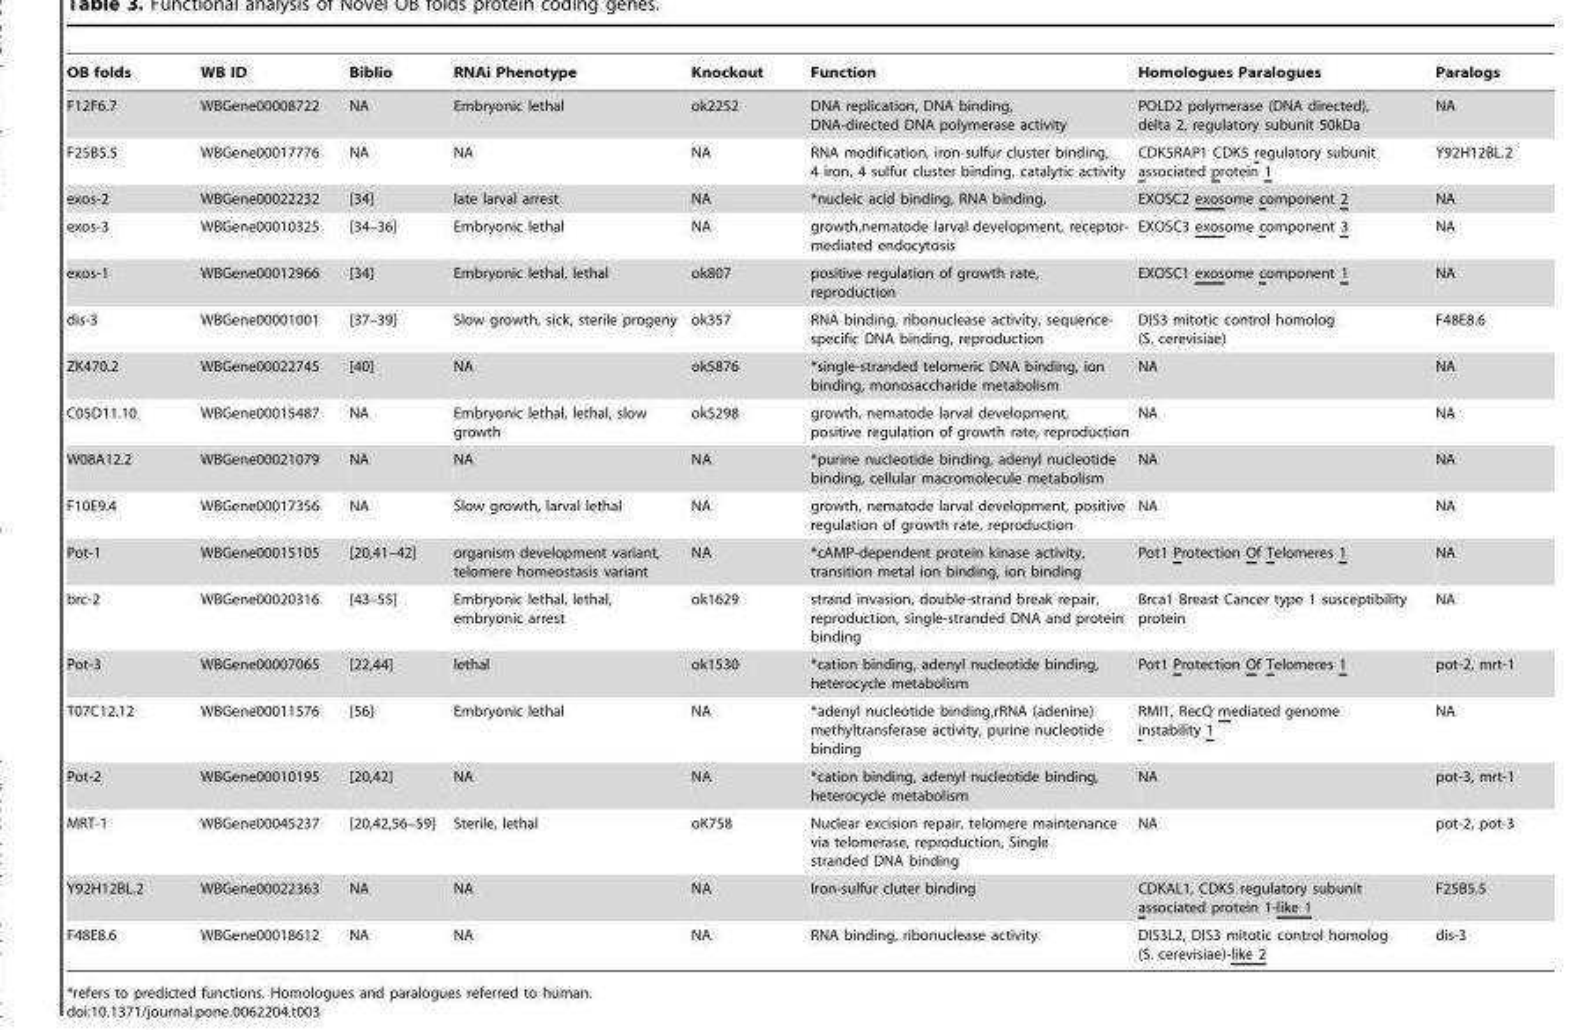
<table><thead><tr><td>OB folds</td><td>WB ID</td><td>Biblio</td><td>RNAi Phenotype</td><td>Knockout</td><td>Function</td><td>Homologues Paralogues</td><td>Paralogs</td></tr></thead><tbody><tr><td>F12F6.7</td><td>WBGene00008722</td><td>NA</td><td>Embryonic lethal</td><td>ok2252</td><td>DNA replication, DNA binding, DNA-directed DNA polymerase activity</td><td>POLD2 polymerase (DNA directed), delta 2, regulatory subunit 50kDa</td><td>NA</td></tr><tr><td>F25B5.5</td><td>WBGene00017776</td><td>NA</td><td>NA</td><td>NA</td><td>RNA modification, iron-sulfur cluster binding, 4 iron, 4 sulfur cluster binding, catalytic activity</td><td>CDK5RAP1 CDK5 regulatory subunit associated protein 1</td><td>Y92H12BL.2</td></tr><tr><td>exos-2</td><td>WBGene00022232</td><td>[34]</td><td>late larval arrest</td><td>NA</td><td>*nucleic acid binding, RNA binding,</td><td>EXOSC2 exosome component 2</td><td>NA</td></tr><tr><td>exos-3</td><td>WBGene00010325</td><td>[34–36]</td><td>Embryonic lethal</td><td>NA</td><td>growth,nematode larval development, receptor- mediated endocytosis</td><td>EXOSC3 exosome component 3</td><td>NA</td></tr><tr><td>exos-1</td><td>WBGene00012966</td><td>[34]</td><td>Embryonic lethal, lethal</td><td>ok807</td><td>positive regulation of growth rate, reproduction</td><td>EXOSC1 exosome component 1</td><td>NA</td></tr><tr><td>dis-3</td><td>WBGene00001001</td><td>[37–39]</td><td>Slow growth, sick, sterile progeny</td><td>ok357</td><td>RNA binding, ribonuclease activity, sequence- specific DNA binding, reproduction</td><td>DIS3 mitotic control homolog (S. cerevisiae)</td><td>F48E8.6</td></tr><tr><td>ZK470.2</td><td>WBGene00022745</td><td>[40]</td><td>NA</td><td>ok5876</td><td>*single-stranded telomeric DNA binding, ion binding, monosaccharide metabolism</td><td>NA</td><td>NA</td></tr><tr><td>C05D11.10</td><td>WBGene00015487</td><td>NA</td><td>Embryonic lethal, lethal, slow growth</td><td>ok5298</td><td>growth, nematode larval development, positive regulation of growth rate, reproduction</td><td>NA</td><td>NA</td></tr><tr><td>W08A12.2</td><td>WBGene00021079</td><td>NA</td><td>NA</td><td>NA</td><td>*purine nucleotide binding, adenyl nucleotide binding, cellular macromolecule metabolism</td><td>NA</td><td>NA</td></tr><tr><td>F10E9.4</td><td>WBGene00017356</td><td>NA</td><td>Slow growth, larval lethal</td><td>NA</td><td>growth, nematode larval development, positive regulation of growth rate, reproduction</td><td>NA</td><td>NA</td></tr><tr><td>Pot-1</td><td>WBGene00015105</td><td>[20,41–42]</td><td>organism development variant, telomere homeostasis variant</td><td>NA</td><td>*cAMP-dependent protein kinase activity, transition metal ion binding, ion binding</td><td>Pot1 Protection Of Telomeres 1</td><td>NA</td></tr><tr><td>brc-2</td><td>WBGene00020316</td><td>[43–55]</td><td>Embryonic lethal, lethal, embryonic arrest</td><td>ok1629</td><td>strand invasion, double-strand break repair, reproduction, single-stranded DNA and protein binding</td><td>Brca1 Breast Cancer type 1 susceptibility protein</td><td>NA</td></tr><tr><td>Pot-3</td><td>WBGene00007065</td><td>[22,44]</td><td>lethal</td><td>ok1530</td><td>*cation binding, adenyl nucleotide binding, heterocycle metabolism</td><td>Pot1 Protection Of Telomeres 1</td><td>pot-2, mrt-1</td></tr><tr><td>T07C12.12</td><td>WBGene00011576</td><td>[56]</td><td>Embryonic lethal</td><td>NA</td><td>*adenyl nucleotide binding,rRNA (adenine) methyltransferase activity, purine nucleotide binding</td><td>RMI1, RecQ mediated genome instability 1</td><td>NA</td></tr><tr><td>Pot-2</td><td>WBGene00010195</td><td>[20,42]</td><td>NA</td><td>NA</td><td>*cation binding, adenyl nucleotide binding, heterocycle metabolism</td><td>NA</td><td>pot-3, mrt-1</td></tr><tr><td>MRT-1</td><td>WBGene00045237</td><td>[20,42,56–59]</td><td>Sterile, lethal</td><td>oK758</td><td>Nuclear excision repair, telomere maintenance via telomerase, reproduction, Single stranded DNA binding</td><td>NA</td><td>pot-2, pot-3</td></tr><tr><td>Y92H12BL.2</td><td>WBGene00022363</td><td>NA</td><td>NA</td><td>NA</td><td>Iron-sulfur cluter binding</td><td>CDKAL1, CDK5 regulatory subunit associated protein 1-like 1</td><td>F25B5.5</td></tr><tr><td>F48E8.6</td><td>WBGene00018612</td><td>NA</td><td>NA</td><td>NA</td><td>RNA binding, ribonuclease activity</td><td>DIS3L2, DIS3 mitotic control homolog (S. cerevisiae)-like 2</td><td>dis-3</td></tr></tbody></table>